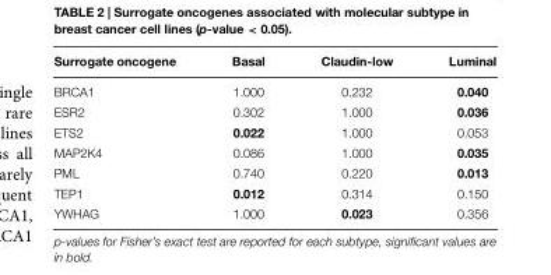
<table><thead><tr><td>Surrogate oncogene</td><td>Basal</td><td>Claudin-low</td><td>Luminal</td></tr></thead><tbody><tr><td>BRCA1</td><td>1.000</td><td>0.232</td><td>0.040</td></tr><tr><td>ESR2</td><td>0.302</td><td>1.000</td><td>0.036</td></tr><tr><td>ETS2</td><td>0.022</td><td>1.000</td><td>0.053</td></tr><tr><td>MAP2K4</td><td>0.086</td><td>1.000</td><td>0.035</td></tr><tr><td>PML</td><td>0.740</td><td>0.220</td><td>0.013</td></tr><tr><td>TEP1</td><td>0.012</td><td>0.314</td><td>0.150</td></tr><tr><td>YWHAG</td><td>1.000</td><td>0.023</td><td>0.356</td></tr></tbody></table>